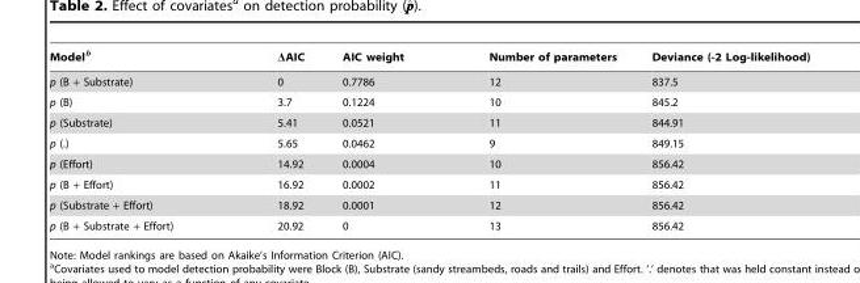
<table><thead><tr><td>Model<sup>b</sup></td><td>ΔAIC</td><td>AIC weight</td><td>Number of parameters</td><td>Deviance (-2 Log-likelihood)</td></tr></thead><tbody><tr><td>p (B + Substrate)</td><td>0</td><td>0.7786</td><td>12</td><td>837.5</td></tr><tr><td>p (B)</td><td>3.7</td><td>0.1224</td><td>10</td><td>845.2</td></tr><tr><td>p (Substrate)</td><td>5.41</td><td>0.0521</td><td>11</td><td>844.91</td></tr><tr><td>p (.)</td><td>5.65</td><td>0.0462</td><td>9</td><td>849.15</td></tr><tr><td>p (Effort)</td><td>14.92</td><td>0.0004</td><td>10</td><td>856.42</td></tr><tr><td>p (B + Effort)</td><td>16.92</td><td>0.0002</td><td>11</td><td>856.42</td></tr><tr><td>p (Substrate + Effort)</td><td>18.92</td><td>0.0001</td><td>12</td><td>856.42</td></tr><tr><td>p (B + Substrate + Effort)</td><td>20.92</td><td>0</td><td>13</td><td>856.42</td></tr></tbody></table>